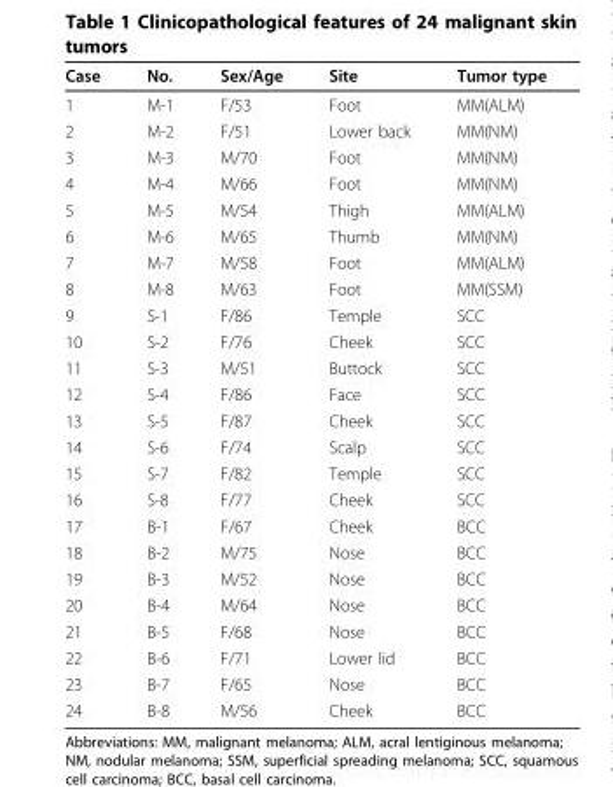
<table><thead><tr><td>Case</td><td>No.</td><td>Sex/Age</td><td>Site</td><td>Tumor type</td></tr></thead><tbody><tr><td>1</td><td>M-1</td><td>F/53</td><td>Foot</td><td>MM(ALM)</td></tr><tr><td>2</td><td>M-2</td><td>F/51</td><td>Lower back</td><td>MM(NM)</td></tr><tr><td>3</td><td>M-3</td><td>M/70</td><td>Foot</td><td>MM(NM)</td></tr><tr><td>4</td><td>M-4</td><td>M/66</td><td>Foot</td><td>MM(NM)</td></tr><tr><td>5</td><td>M-5</td><td>M/54</td><td>Thigh</td><td>MM(ALM)</td></tr><tr><td>6</td><td>M-6</td><td>M/65</td><td>Thumb</td><td>MM(NM)</td></tr><tr><td>7</td><td>M-7</td><td>M/58</td><td>Foot</td><td>MM(ALM)</td></tr><tr><td>8</td><td>M-8</td><td>M/63</td><td>Foot</td><td>MM(SSM)</td></tr><tr><td>9</td><td>S-1</td><td>F/86</td><td>Temple</td><td>SCC</td></tr><tr><td>10</td><td>S-2</td><td>F/76</td><td>Cheek</td><td>SCC</td></tr><tr><td>11</td><td>S-3</td><td>M/51</td><td>Buttock</td><td>SCC</td></tr><tr><td>12</td><td>S-4</td><td>F/86</td><td>Face</td><td>SCC</td></tr><tr><td>13</td><td>S-5</td><td>F/87</td><td>Cheek</td><td>SCC</td></tr><tr><td>14</td><td>S-6</td><td>F/74</td><td>Scalp</td><td>SCC</td></tr><tr><td>15</td><td>S-7</td><td>F/82</td><td>Temple</td><td>SCC</td></tr><tr><td>16</td><td>S-8</td><td>F/77</td><td>Cheek</td><td>SCC</td></tr><tr><td>17</td><td>B-1</td><td>F/67</td><td>Cheek</td><td>BCC</td></tr><tr><td>18</td><td>B-2</td><td>M/75</td><td>Nose</td><td>BCC</td></tr><tr><td>19</td><td>B-3</td><td>M/52</td><td>Nose</td><td>BCC</td></tr><tr><td>20</td><td>B-4</td><td>M/64</td><td>Nose</td><td>BCC</td></tr><tr><td>21</td><td>B-5</td><td>F/68</td><td>Nose</td><td>BCC</td></tr><tr><td>22</td><td>B-6</td><td>F/71</td><td>Lower lid</td><td>BCC</td></tr><tr><td>23</td><td>B-7</td><td>F/65</td><td>Nose</td><td>BCC</td></tr><tr><td>24</td><td>B-8</td><td>M/56</td><td>Cheek</td><td>BCC</td></tr></tbody></table>